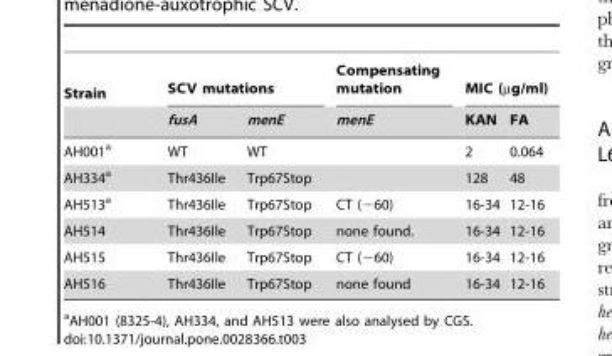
<table><thead><tr><td rowspan="2">Strain</td><td colspan="2">SCV mutations</td><td rowspan="2">Compensating mutation menE</td><td colspan="2">MIC (µg/ml)</td></tr><tr><td>fusA</td><td>menE</td><td>KAN</td><td>FA</td></tr></thead><tbody><tr><td>AH001<sup>a</sup></td><td>WT</td><td>WT</td><td></td><td>2</td><td>0.064</td></tr><tr><td>AH334<sup>a</sup></td><td>Thr436Ile</td><td>Trp67Stop</td><td></td><td>128</td><td>48</td></tr><tr><td>AH513<sup>a</sup></td><td>Thr436Ile</td><td>Trp67Stop</td><td>CT (−60)</td><td>16-34</td><td>12-16</td></tr><tr><td>AH514</td><td>Thr436Ile</td><td>Trp67Stop</td><td>none found.</td><td>16-34</td><td>12-16</td></tr><tr><td>AH515</td><td>Thr436Ile</td><td>Trp67Stop</td><td>CT (−60)</td><td>16-34</td><td>12-16</td></tr><tr><td>AH516</td><td>Thr436Ile</td><td>Trp67Stop</td><td>none found</td><td>16-34</td><td>12-16</td></tr></tbody></table>